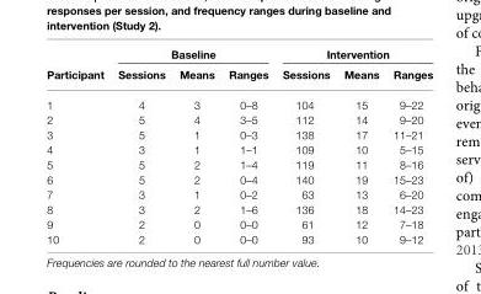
<table><thead><tr><td rowspan="2">Participant</td><td colspan="3">Baseline</td><td colspan="3">Intervention</td></tr><tr><td>Sessions</td><td>Means</td><td>Ranges</td><td>Sessions</td><td>Means</td><td>Ranges</td></tr></thead><tbody><tr><td>1</td><td>4</td><td>3</td><td>0–8</td><td>104</td><td>15</td><td>9–22</td></tr><tr><td>2</td><td>5</td><td>4</td><td>3–5</td><td>112</td><td>14</td><td>9–20</td></tr><tr><td>3</td><td>5</td><td>1</td><td>0–3</td><td>138</td><td>17</td><td>11–21</td></tr><tr><td>4</td><td>3</td><td>1</td><td>1–1</td><td>109</td><td>10</td><td>5–15</td></tr><tr><td>5</td><td>5</td><td>2</td><td>1–4</td><td>119</td><td>11</td><td>8–16</td></tr><tr><td>6</td><td>5</td><td>2</td><td>0–4</td><td>140</td><td>19</td><td>15–23</td></tr><tr><td>7</td><td>3</td><td>1</td><td>0–2</td><td>63</td><td>13</td><td>6–20</td></tr><tr><td>8</td><td>3</td><td>2</td><td>1–6</td><td>136</td><td>18</td><td>14–23</td></tr><tr><td>9</td><td>2</td><td>0</td><td>0–0</td><td>61</td><td>12</td><td>7–18</td></tr><tr><td>10</td><td>2</td><td>0</td><td>0–0</td><td>93</td><td>10</td><td>9–12</td></tr></tbody></table>